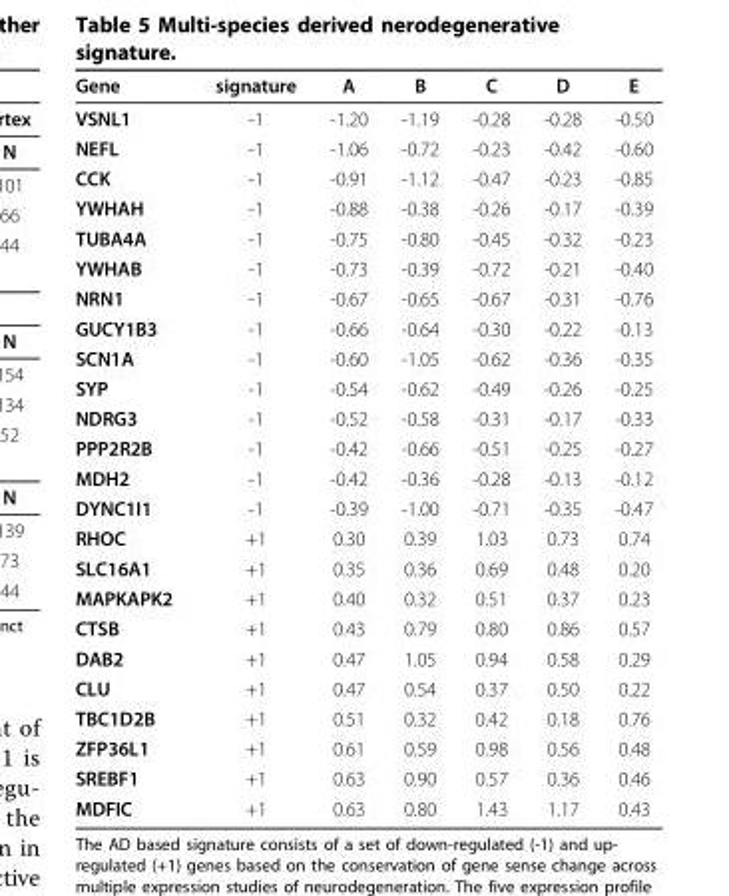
<table><thead><tr><td>Gene</td><td>signature</td><td>A</td><td>B</td><td>C</td><td>D</td><td>E</td></tr></thead><tbody><tr><td>VSNL1</td><td>-1</td><td>-1.20</td><td>-1.19</td><td>-0.28</td><td>-0.28</td><td>-0.50</td></tr><tr><td>NEFL</td><td>-1</td><td>-1.06</td><td>-0.72</td><td>-0.23</td><td>-0.42</td><td>-0.60</td></tr><tr><td>CCK</td><td>-1</td><td>-0.91</td><td>-1.12</td><td>-0.47</td><td>-0.23</td><td>-0.85</td></tr><tr><td>YWHAH</td><td>-1</td><td>-0.88</td><td>-0.38</td><td>-0.26</td><td>-0.17</td><td>-0.39</td></tr><tr><td>TUBA4A</td><td>-1</td><td>-0.75</td><td>-0.80</td><td>-0.45</td><td>-0.32</td><td>-0.23</td></tr><tr><td>YWHAB</td><td>-1</td><td>-0.73</td><td>-0.39</td><td>-0.72</td><td>-0.21</td><td>-0.40</td></tr><tr><td>NRN1</td><td>-1</td><td>-0.67</td><td>-0.65</td><td>-0.67</td><td>-0.31</td><td>-0.76</td></tr><tr><td>GUCY1B3</td><td>-1</td><td>-0.66</td><td>-0.64</td><td>-0.30</td><td>-0.22</td><td>-0.13</td></tr><tr><td>SCN1A</td><td>-1</td><td>-0.60</td><td>-1.05</td><td>-0.62</td><td>-0.36</td><td>-0.35</td></tr><tr><td>SYP</td><td>-1</td><td>-0.54</td><td>-0.62</td><td>-0.49</td><td>-0.26</td><td>-0.25</td></tr><tr><td>NDRG3</td><td>-1</td><td>-0.52</td><td>-0.58</td><td>-0.31</td><td>-0.17</td><td>-0.33</td></tr><tr><td>PPP2R2B</td><td>-1</td><td>-0.42</td><td>-0.66</td><td>-0.51</td><td>-0.25</td><td>-0.27</td></tr><tr><td>MDH2</td><td>-1</td><td>-0.42</td><td>-0.36</td><td>-0.28</td><td>-0.13</td><td>-0.12</td></tr><tr><td>DYNC1I1</td><td>-1</td><td>-0.39</td><td>-1.00</td><td>-0.71</td><td>-0.35</td><td>-0.47</td></tr><tr><td>RHOC</td><td>+1</td><td>0.30</td><td>0.39</td><td>1.03</td><td>0.73</td><td>0.74</td></tr><tr><td>SLC16A1</td><td>+1</td><td>0.35</td><td>0.36</td><td>0.69</td><td>0.48</td><td>0.20</td></tr><tr><td>MAPKAPK2</td><td>+1</td><td>0.40</td><td>0.32</td><td>0.51</td><td>0.37</td><td>0.23</td></tr><tr><td>CTSB</td><td>+1</td><td>0.43</td><td>0.79</td><td>0.80</td><td>0.86</td><td>0.57</td></tr><tr><td>DAB2</td><td>+1</td><td>0.47</td><td>1.05</td><td>0.94</td><td>0.58</td><td>0.29</td></tr><tr><td>CLU</td><td>+1</td><td>0.47</td><td>0.54</td><td>0.37</td><td>0.50</td><td>0.22</td></tr><tr><td>TBC1D2B</td><td>+1</td><td>0.51</td><td>0.32</td><td>0.42</td><td>0.18</td><td>0.76</td></tr><tr><td>ZFP36L1</td><td>+1</td><td>0.61</td><td>0.59</td><td>0.98</td><td>0.56</td><td>0.48</td></tr><tr><td>SREBF1</td><td>+1</td><td>0.63</td><td>0.90</td><td>0.57</td><td>0.36</td><td>0.46</td></tr><tr><td>MDFIC</td><td>+1</td><td>0.63</td><td>0.80</td><td>1.43</td><td>1.17</td><td>0.43</td></tr></tbody></table>